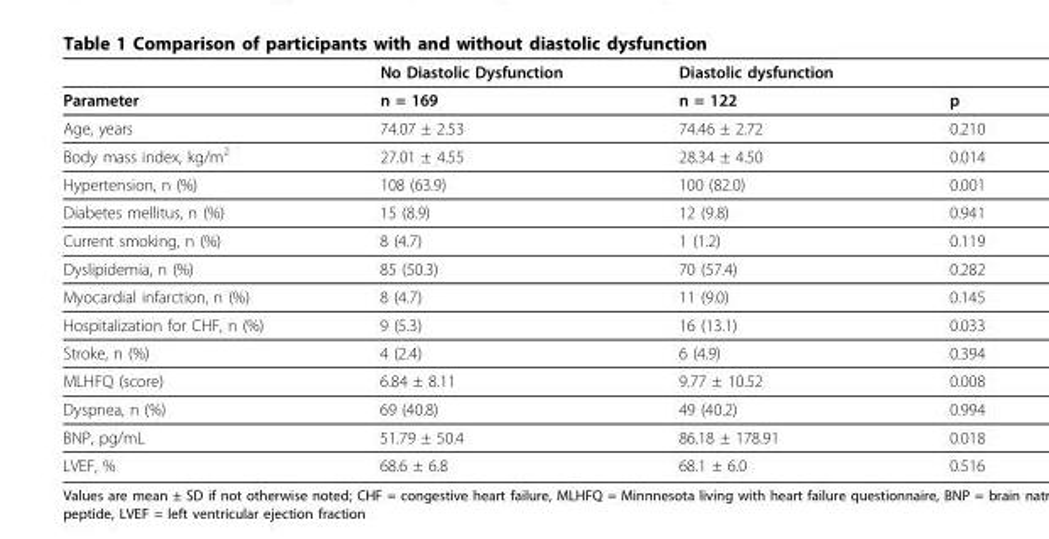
<table><thead><tr><td></td><td>No Diastolic Dysfunction</td><td>Diastolic dysfunction</td><td></td></tr></thead><tbody><tr><td>Parameter</td><td>n = 169</td><td>n = 122</td><td>p</td></tr><tr><td>Age, years</td><td>74.07 ± 2.53</td><td>74.46 ± 2.72</td><td>0.210</td></tr><tr><td>Body mass index, kg/m<sup>2</sup></td><td>27.01 ± 4.55</td><td>28.34 ± 4.50</td><td>0.014</td></tr><tr><td>Hypertension, n (%)</td><td>108 (63.9)</td><td>100 (82.0)</td><td>0.001</td></tr><tr><td>Diabetes mellitus, n (%)</td><td>15 (8.9)</td><td>12 (9.8)</td><td>0.941</td></tr><tr><td>Current smoking, n (%)</td><td>8 (4.7)</td><td>1 (1.2)</td><td>0.119</td></tr><tr><td>Dyslipidemia, n (%)</td><td>85 (50.3)</td><td>70 (57.4)</td><td>0.282</td></tr><tr><td>Myocardial infarction, n (%)</td><td>8 (4.7)</td><td>11 (9.0)</td><td>0.145</td></tr><tr><td>Hospitalization for CHF, n (%)</td><td>9 (5.3)</td><td>16 (13.1)</td><td>0.033</td></tr><tr><td>Stroke, n (%)</td><td>4 (2.4)</td><td>6 (4.9)</td><td>0.394</td></tr><tr><td>MLHFQ (score)</td><td>6.84 ± 8.11</td><td>9.77 ± 10.52</td><td>0.008</td></tr><tr><td>Dyspnea, n (%)</td><td>69 (40.8)</td><td>49 (40.2)</td><td>0.994</td></tr><tr><td>BNP, pg/mL</td><td>51.79 ± 50.4</td><td>86.18 ± 178.91</td><td>0.018</td></tr><tr><td>LVEF, %</td><td>68.6 ± 6.8</td><td>68.1 ± 6.0</td><td>0.516</td></tr></tbody></table>